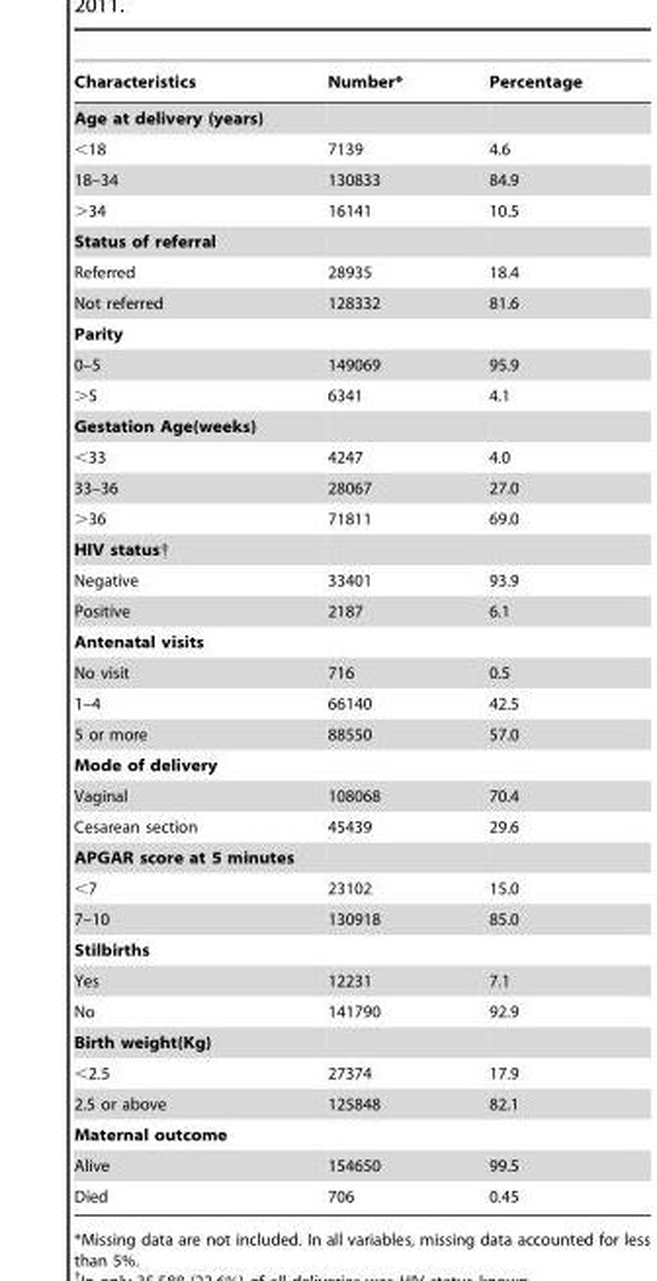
<table><thead><tr><td>Characteristics</td><td>Number*</td><td>Percentage</td></tr></thead><tbody><tr><td colspan="3">Age at delivery (years)</td></tr><tr><td>&lt;18</td><td>7139</td><td>4.6</td></tr><tr><td>18–34</td><td>130833</td><td>84.9</td></tr><tr><td>&gt;34</td><td>16141</td><td>10.5</td></tr><tr><td colspan="3">Status of referral</td></tr><tr><td>Referred</td><td>28935</td><td>18.4</td></tr><tr><td>Not referred</td><td>128332</td><td>81.6</td></tr><tr><td colspan="3">Parity</td></tr><tr><td>0–5</td><td>149069</td><td>95.9</td></tr><tr><td>&gt;5</td><td>6341</td><td>4.1</td></tr><tr><td colspan="3">Gestation Age(weeks)</td></tr><tr><td>&lt;33</td><td>4247</td><td>4.0</td></tr><tr><td>33–36</td><td>28067</td><td>27.0</td></tr><tr><td>&gt;36</td><td>71811</td><td>69.0</td></tr><tr><td colspan="3">HIV status†</td></tr><tr><td>Negative</td><td>33401</td><td>93.9</td></tr><tr><td>Positive</td><td>2187</td><td>6.1</td></tr><tr><td colspan="3">Antenatal visits</td></tr><tr><td>No visit</td><td>716</td><td>0.5</td></tr><tr><td>1–4</td><td>66140</td><td>42.5</td></tr><tr><td>5 or more</td><td>88550</td><td>57.0</td></tr><tr><td colspan="3">Mode of delivery</td></tr><tr><td>Vaginal</td><td>108068</td><td>70.4</td></tr><tr><td>Cesarean section</td><td>45439</td><td>29.6</td></tr><tr><td colspan="3">APGAR score at 5 minutes</td></tr><tr><td>&lt;7</td><td>23102</td><td>15.0</td></tr><tr><td>7–10</td><td>130918</td><td>85.0</td></tr><tr><td colspan="3">Stilbirths</td></tr><tr><td>Yes</td><td>12231</td><td>7.1</td></tr><tr><td>No</td><td>141790</td><td>92.9</td></tr><tr><td colspan="3">Birth weight(Kg)</td></tr><tr><td>&lt;2.5</td><td>27374</td><td>17.9</td></tr><tr><td>2.5 or above</td><td>125848</td><td>82.1</td></tr><tr><td colspan="3">Maternal outcome</td></tr><tr><td>Alive</td><td>154650</td><td>99.5</td></tr><tr><td>Died</td><td>706</td><td>0.45</td></tr></tbody></table>